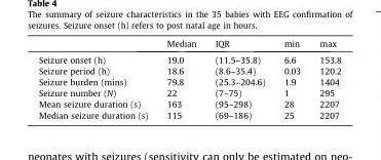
<table><thead><tr><td></td><td>Median</td><td>IQR</td><td>min</td><td>max</td></tr></thead><tbody><tr><td>Seizure onset (h)</td><td>19.0</td><td>(11.5–35.8)</td><td>6.6</td><td>153.8</td></tr><tr><td>Seizure period (h)</td><td>18.6</td><td>(8.6–35.4)</td><td>0.03</td><td>120.2</td></tr><tr><td>Seizure burden (mins)</td><td>79.8</td><td>(25.3–204.6)</td><td>1.9</td><td>1404</td></tr><tr><td>Seizure number (N)</td><td>22</td><td>(7–75)</td><td>1</td><td>295</td></tr><tr><td>Mean seizure duration (s)</td><td>163</td><td>(95–298)</td><td>28</td><td>2207</td></tr><tr><td>Median seizure duration (s)</td><td>115</td><td>(69–186)</td><td>25</td><td>2207</td></tr></tbody></table>